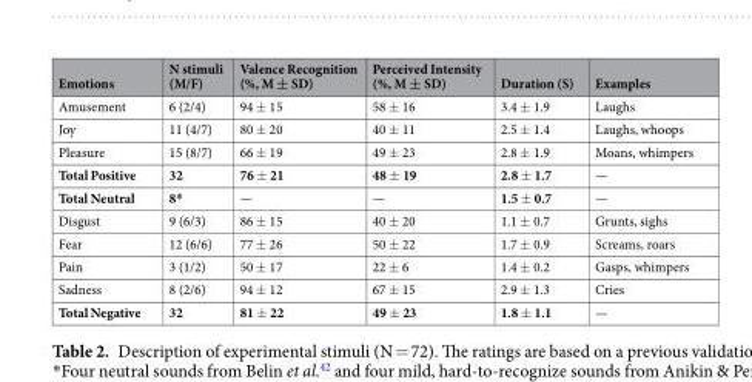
<table><thead><tr><td>Emotions</td><td>N stimuli (M/F)</td><td>Valence Recognition (%, M ± SD)</td><td>Perceived Intensity (%, M ± SD)</td><td>Duration (S)</td><td>Examples</td></tr></thead><tbody><tr><td>Amusement</td><td>6 (2/4)</td><td>94 ± 15</td><td>58 ± 16</td><td>3.4 ± 1.9</td><td>Laughs</td></tr><tr><td>Joy</td><td>11 (4/7)</td><td>80 ± 20</td><td>40 ± 11</td><td>2.5 ± 1.4</td><td>Laughs, whoops</td></tr><tr><td>Pleasure</td><td>15 (8/7)</td><td>66 ± 19</td><td>49 ± 23</td><td>2.8 ± 1.9</td><td>Moans, whimpers</td></tr><tr><td>Total Positive</td><td>32</td><td>76 ± 21</td><td>48 ± 19</td><td>2.8 ± 1.7</td><td>—</td></tr><tr><td>Total Neutral</td><td>8*</td><td>—</td><td>—</td><td>1.5 ± 0.7</td><td>—</td></tr><tr><td>Disgust</td><td>9 (6/3)</td><td>86 ± 15</td><td>40 ± 20</td><td>1.1 ± 0.7</td><td>Grunts, sighs</td></tr><tr><td>Fear</td><td>12 (6/6)</td><td>77 ± 26</td><td>50 ± 22</td><td>1.7 ± 0.9</td><td>Screams, roars</td></tr><tr><td>Pain</td><td>3 (1/2)</td><td>50 ± 17</td><td>22 ± 6</td><td>1.4 ± 0.2</td><td>Gasps, whimpers</td></tr><tr><td>Sadness</td><td>8 (2/6)</td><td>94 ± 12</td><td>67 ± 15</td><td>2.9 ± 1.3</td><td>Cries</td></tr><tr><td>Total Negative</td><td>32</td><td>81 ± 22</td><td>49 ± 23</td><td>1.8 ± 1.1</td><td>—</td></tr></tbody></table>